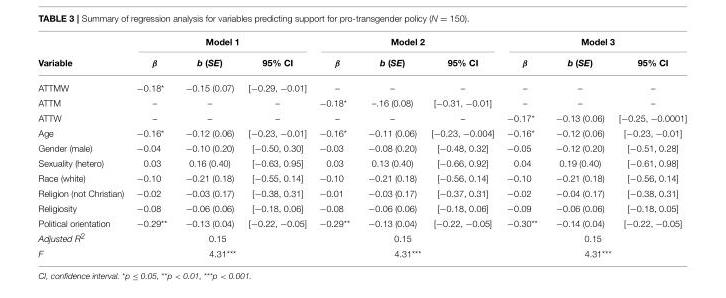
<table><thead><tr><td rowspan="2">Variable</td><td colspan="3">Model 1</td><td colspan="3">Model 2</td><td colspan="3">Model 3</td></tr><tr><td>β</td><td>b (SE)</td><td>95% CI</td><td>β</td><td>b (SE)</td><td>95% CI</td><td>β</td><td>b (SE)</td><td>95% CI</td></tr></thead><tbody><tr><td>ATTMW</td><td>−0.18*</td><td>−0.15 (0.07)</td><td>[−0.29, −0.01]</td><td>–</td><td>–</td><td>–</td><td>–</td><td>–</td><td>–</td></tr><tr><td>ATTM</td><td>–</td><td>–</td><td>–</td><td>−0.18*</td><td>–.16 (0.08)</td><td>[−0.31, −0.01]</td><td>–</td><td>–</td><td>–</td></tr><tr><td>ATTW</td><td>–</td><td>–</td><td>–</td><td>–</td><td>–</td><td>–</td><td>−0.17*</td><td>−0.13 (0.06)</td><td>[−0.25, −0.0001]</td></tr><tr><td>Age</td><td>−0.16*</td><td>−0.12 (0.06)</td><td>[−0.23, −0.01]</td><td>−0.16*</td><td>−0.11 (0.06)</td><td>[−0.23, −0.004]</td><td>−0.16*</td><td>−0.12 (0.06)</td><td>[−0.23, −0.01]</td></tr><tr><td>Gender (male)</td><td>−0.04</td><td>−0.10 (0.20)</td><td>[−0.50, 0.30]</td><td>−0.03</td><td>−0.08 (0.20)</td><td>[−0.48, 0.32]</td><td>−0.05</td><td>−0.12 (0.20)</td><td>[−0.51, 0.28]</td></tr><tr><td>Sexuality (hetero)</td><td>0.03</td><td>0.16 (0.40)</td><td>[−0.63, 0.95]</td><td>0.03</td><td>0.13 (0.40)</td><td>[−0.66, 0.92]</td><td>0.04</td><td>0.19 (0.40)</td><td>[−0.61, 0.98]</td></tr><tr><td>Race (white)</td><td>−0.10</td><td>−0.21 (0.18)</td><td>[−0.55, 0.14]</td><td>−0.10</td><td>−0.21 (0.18)</td><td>[−0.56, 0.14]</td><td>−0.10</td><td>−0.21 (0.18)</td><td>[−0.56, 0.14]</td></tr><tr><td>Religion (not Christian)</td><td>−0.02</td><td>−0.03 (0.17)</td><td>[−0.38, 0.31]</td><td>−0.01</td><td>−0.03 (0.17)</td><td>[−0.37, 0.31]</td><td>−0.02</td><td>−0.04 (0.17)</td><td>[−0.38, 0.31]</td></tr><tr><td>Religiosity</td><td>−0.08</td><td>−0.06 (0.06)</td><td>[−0.18, 0.06]</td><td>−0.08</td><td>−0.06 (0.06)</td><td>[−0.18, 0.06]</td><td>−0.09</td><td>−0.06 (0.06)</td><td>[−0.18, 0.05]</td></tr><tr><td>Political orientation</td><td>−0.29**</td><td>−0.13 (0.04)</td><td>[−0.22, −0.05]</td><td>−0.29**</td><td>−0.13 (0.04)</td><td>[−0.22, −0.05]</td><td>−0.30**</td><td>−0.14 (0.04)</td><td>[−0.22, −0.05]</td></tr><tr><td>Adjusted R<sup>2</sup></td><td colspan="3">0.15</td><td colspan="3">0.15</td><td colspan="3">0.15</td></tr><tr><td>F</td><td colspan="3">4.31***</td><td colspan="3">4.31***</td><td colspan="3">4.31***</td></tr></tbody></table>